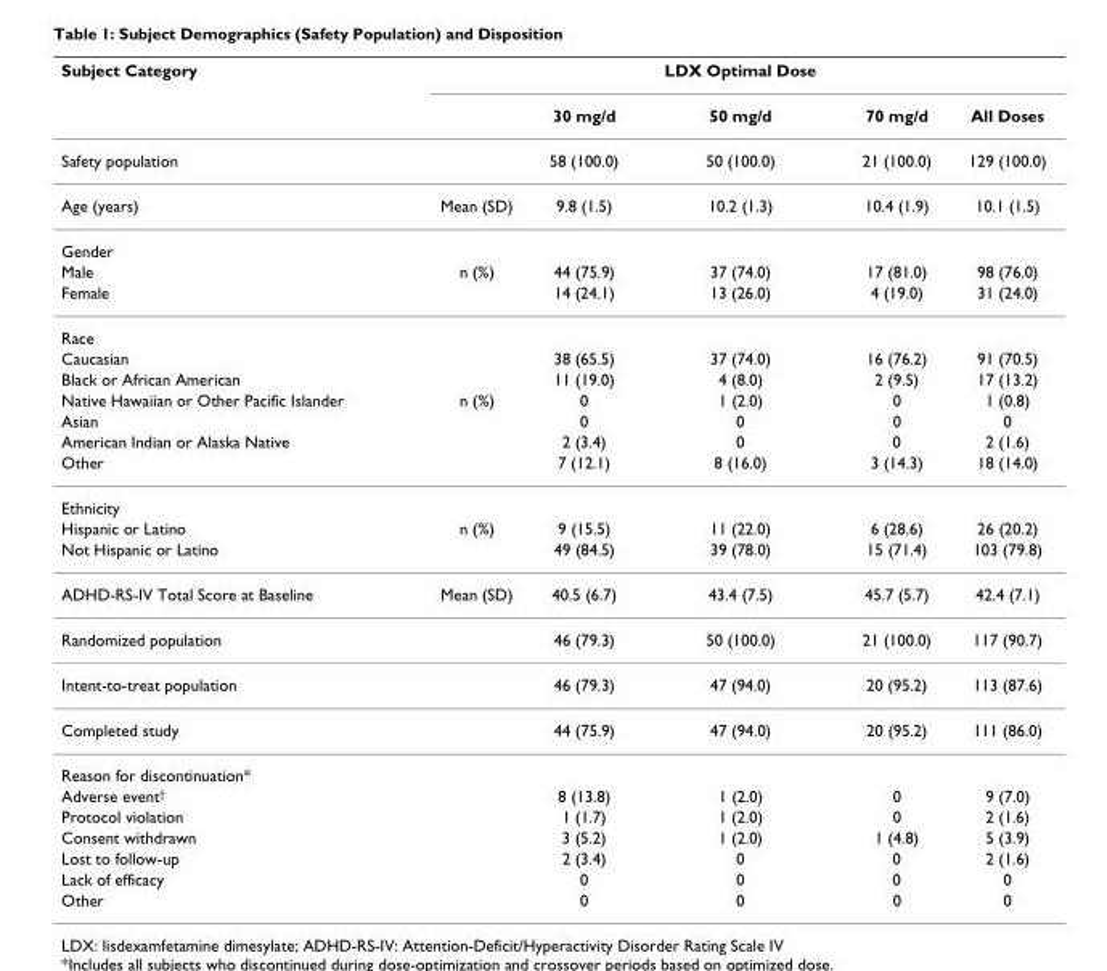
<table><thead><tr><td rowspan="2">Subject Category</td><td rowspan="2"></td><td rowspan="2">30 mg/d</td><td rowspan="2">LDX Optimal Dose 50 mg/d</td><td rowspan="2">70 mg/d</td><td rowspan="2">All Doses</td></tr><tr></tr></thead><tbody><tr><td>Safety population</td><td></td><td>58 (100.0)</td><td>50 (100.0)</td><td>21 (100.0)</td><td>129 (100.0)</td></tr><tr><td>Age (years)</td><td>Mean (SD)</td><td>9.8 (1.5)</td><td>10.2 (1.3)</td><td>10.4 (1.9)</td><td>10.1 (1.5)</td></tr><tr><td colspan="6">Gender</td></tr><tr><td>Male</td><td>n (%)</td><td>44 (75.9)</td><td>37 (74.0)</td><td>17 (81.0)</td><td>98 (76.0)</td></tr><tr><td>Female</td><td></td><td>14 (24.1)</td><td>13 (26.0)</td><td>4 (19.0)</td><td>31 (24.0)</td></tr><tr><td colspan="6">Race</td></tr><tr><td>Caucasian</td><td></td><td>38 (65.5)</td><td>37 (74.0)</td><td>16 (76.2)</td><td>91 (70.5)</td></tr><tr><td>Black or African American</td><td></td><td>11 (19.0)</td><td>4 (8.0)</td><td>2 (9.5)</td><td>17 (13.2)</td></tr><tr><td>Native Hawaiian or Other Pacific Islander</td><td>n (%)</td><td>0</td><td>1 (2.0)</td><td>0</td><td>1 (0.8)</td></tr><tr><td>Asian</td><td></td><td>0</td><td>0</td><td>0</td><td>0</td></tr><tr><td>American Indian or Alaska Native</td><td></td><td>2 (3.4)</td><td>0</td><td>0</td><td>2 (1.6)</td></tr><tr><td>Other</td><td></td><td>7 (12.1)</td><td>8 (16.0)</td><td>3 (14.3)</td><td>18 (14.0)</td></tr><tr><td colspan="6">Ethnicity</td></tr><tr><td>Hispanic or Latino</td><td>n (%)</td><td>9 (15.5)</td><td>11 (22.0)</td><td>6 (28.6)</td><td>26 (20.2)</td></tr><tr><td>Not Hispanic or Latino</td><td></td><td>49 (84.5)</td><td>39 (78.0)</td><td>15 (71.4)</td><td>103 (79.8)</td></tr><tr><td>ADHD-RS-IV Total Score at Baseline</td><td>Mean (SD)</td><td>40.5 (6.7)</td><td>43.4 (7.5)</td><td>45.7 (5.7)</td><td>42.4 (7.1)</td></tr><tr><td>Randomized population</td><td></td><td>46 (79.3)</td><td>50 (100.0)</td><td>21 (100.0)</td><td>117 (90.7)</td></tr><tr><td>Intent-to-treat population</td><td></td><td>46 (79.3)</td><td>47 (94.0)</td><td>20 (95.2)</td><td>113 (87.6)</td></tr><tr><td>Completed study</td><td></td><td>44 (75.9)</td><td>47 (94.0)</td><td>20 (95.2)</td><td>111 (86.0)</td></tr><tr><td colspan="6">Reason for discontinuation*</td></tr><tr><td>Adverse event<sup>†</sup></td><td></td><td>8 (13.8)</td><td>1 (2.0)</td><td>0</td><td>9 (7.0)</td></tr><tr><td>Protocol violation</td><td></td><td>1 (1.7)</td><td>1 (2.0)</td><td>0</td><td>2 (1.6)</td></tr><tr><td>Consent withdrawn</td><td></td><td>3 (5.2)</td><td>1 (2.0)</td><td>1 (4.8)</td><td>5 (3.9)</td></tr><tr><td>Lost to follow-up</td><td></td><td>2 (3.4)</td><td>0</td><td>0</td><td>2 (1.6)</td></tr><tr><td>Lack of efficacy</td><td></td><td>0</td><td>0</td><td>0</td><td>0</td></tr><tr><td>Other</td><td></td><td>0</td><td>0</td><td>0</td><td>0</td></tr></tbody></table>